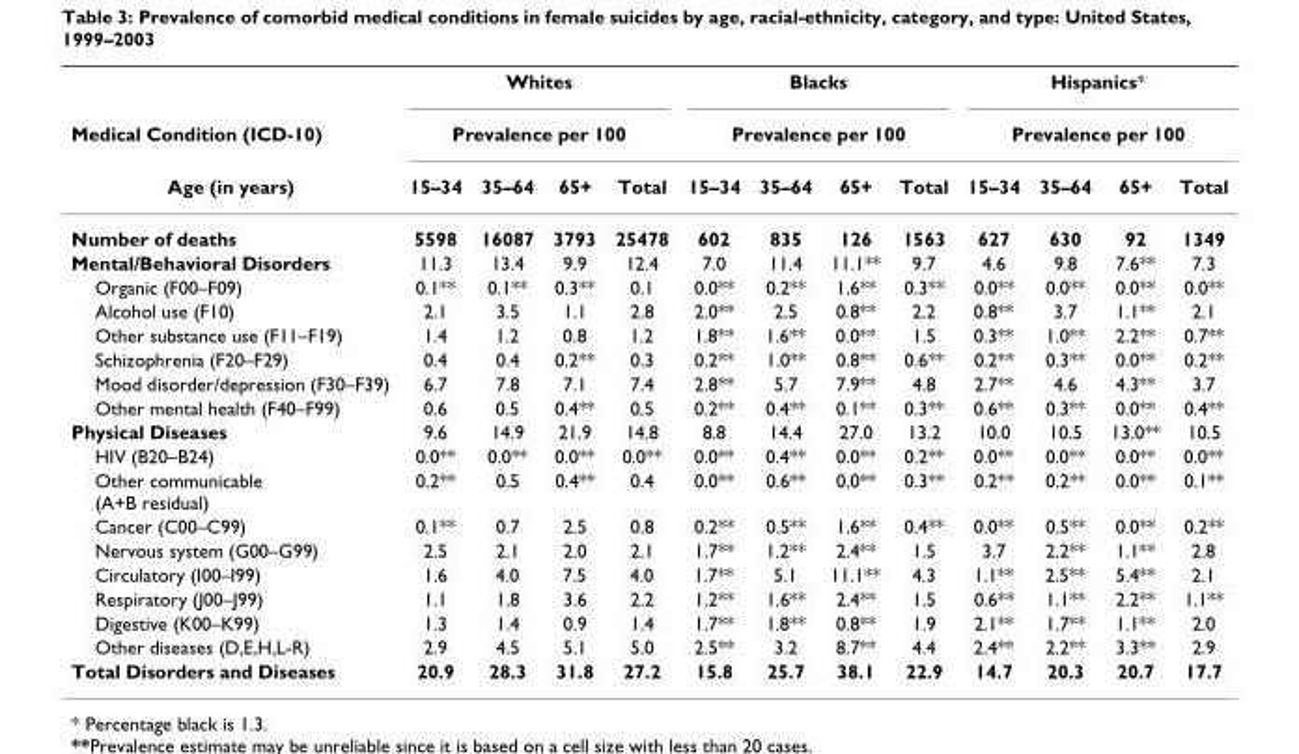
<table><thead><tr><td rowspan="3">Medical Condition (ICD-10) Age (in years)</td><td rowspan="2" colspan="4">Whites Prevalence per 100</td><td rowspan="2" colspan="4">Blacks Prevalence per 100</td><td rowspan="2" colspan="4">Hispanics* Prevalence per 100</td></tr><tr></tr><tr><td>15–34</td><td>35–64</td><td>65+</td><td>Total</td><td>15–34</td><td>35–64</td><td>65+</td><td>Total</td><td>15–34</td><td>35–64</td><td>65+</td><td>Total</td></tr></thead><tbody><tr><td>Number of deaths</td><td>5598</td><td>16087</td><td>3793</td><td>25478</td><td>602</td><td>835</td><td>126</td><td>1563</td><td>627</td><td>630</td><td>92</td><td>1349</td></tr><tr><td>Mental/Behavioral Disorders</td><td>11.3</td><td>13.4</td><td>9.9</td><td>12.4</td><td>7.0</td><td>11.4</td><td>11.1**</td><td>9.7</td><td>4.6</td><td>9.8</td><td>7.6**</td><td>7.3</td></tr><tr><td>Organic (F00–F09)</td><td>0.1**</td><td>0.1**</td><td>0.3**</td><td>0.1</td><td>0.0**</td><td>0.2**</td><td>1.6**</td><td>0.3**</td><td>0.0**</td><td>0.0**</td><td>0.0**</td><td>0.0**</td></tr><tr><td>Alcohol use (F10)</td><td>2.1</td><td>3.5</td><td>1.1</td><td>2.8</td><td>2.0**</td><td>2.5</td><td>0.8**</td><td>2.2</td><td>0.8**</td><td>3.7</td><td>1.1**</td><td>2.1</td></tr><tr><td>Other substance use (F11–F19)</td><td>1.4</td><td>1.2</td><td>0.8</td><td>1.2</td><td>1.8**</td><td>1.6**</td><td>0.0**</td><td>1.5</td><td>0.3**</td><td>1.0**</td><td>2.2**</td><td>0.7**</td></tr><tr><td>Schizophrenia (F20–F29)</td><td>0.4</td><td>0.4</td><td>0.2**</td><td>0.3</td><td>0.2**</td><td>1.0**</td><td>0.8**</td><td>0.6**</td><td>0.2**</td><td>0.3**</td><td>0.0**</td><td>0.2**</td></tr><tr><td>Mood disorder/depression (F30–F39)</td><td>6.7</td><td>7.8</td><td>7.1</td><td>7.4</td><td>2.8**</td><td>5.7</td><td>7.9**</td><td>4.8</td><td>2.7**</td><td>4.6</td><td>4.3**</td><td>3.7</td></tr><tr><td>Other mental health (F40–F99)</td><td>0.6</td><td>0.5</td><td>0.4**</td><td>0.5</td><td>0.2**</td><td>0.4**</td><td>0.1**</td><td>0.3**</td><td>0.6**</td><td>0.3**</td><td>0.0**</td><td>0.4**</td></tr><tr><td>Physical Diseases</td><td>9.6</td><td>14.9</td><td>21.9</td><td>14.8</td><td>8.8</td><td>14.4</td><td>27.0</td><td>13.2</td><td>10.0</td><td>10.5</td><td>13.0**</td><td>10.5</td></tr><tr><td>HIV (B20–B24)</td><td>0.0**</td><td>0.0**</td><td>0.0**</td><td>0.0**</td><td>0.0**</td><td>0.4**</td><td>0.0**</td><td>0.2**</td><td>0.0**</td><td>0.0**</td><td>0.0**</td><td>0.0**</td></tr><tr><td>Other communicable (A+B residual)</td><td>0.2**</td><td>0.5</td><td>0.4**</td><td>0.4</td><td>0.0**</td><td>0.6**</td><td>0.0**</td><td>0.3**</td><td>0.2**</td><td>0.2**</td><td>0.0**</td><td>0.1**</td></tr><tr><td>Cancer (C00–C99)</td><td>0.1**</td><td>0.7</td><td>2.5</td><td>0.8</td><td>0.2**</td><td>0.5**</td><td>1.6**</td><td>0.4**</td><td>0.0**</td><td>0.5**</td><td>0.0**</td><td>0.2**</td></tr><tr><td>Nervous system (G00–G99)</td><td>2.5</td><td>2.1</td><td>2.0</td><td>2.1</td><td>1.7**</td><td>1.2**</td><td>2.4**</td><td>1.5</td><td>3.7</td><td>2.2**</td><td>1.1**</td><td>2.8</td></tr><tr><td>Circulatory (I00–I99)</td><td>1.6</td><td>4.0</td><td>7.5</td><td>4.0</td><td>1.7**</td><td>5.1</td><td>11.1**</td><td>4.3</td><td>1.1**</td><td>2.5**</td><td>5.4**</td><td>2.1</td></tr><tr><td>Respiratory (J00–J99)</td><td>1.1</td><td>1.8</td><td>3.6</td><td>2.2</td><td>1.2**</td><td>1.6**</td><td>2.4**</td><td>1.5</td><td>0.6**</td><td>1.1**</td><td>2.2**</td><td>1.1**</td></tr><tr><td>Digestive (K00–K99)</td><td>1.3</td><td>1.4</td><td>0.9</td><td>1.4</td><td>1.7**</td><td>1.8**</td><td>0.8**</td><td>1.9</td><td>2.1**</td><td>1.7**</td><td>1.1**</td><td>2.0</td></tr><tr><td>Other diseases (D,E,H,L-R)</td><td>2.9</td><td>4.5</td><td>5.1</td><td>5.0</td><td>2.5**</td><td>3.2</td><td>8.7**</td><td>4.4</td><td>2.4**</td><td>2.2**</td><td>3.3**</td><td>2.9</td></tr><tr><td>Total Disorders and Diseases</td><td>20.9</td><td>28.3</td><td>31.8</td><td>27.2</td><td>15.8</td><td>25.7</td><td>38.1</td><td>22.9</td><td>14.7</td><td>20.3</td><td>20.7</td><td>17.7</td></tr></tbody></table>